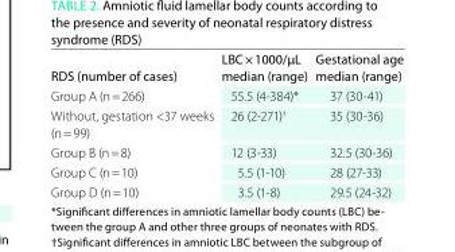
<table><thead><tr><td>Rds (number of cases)</td><td>LBC × 1000/µL median (range)</td><td>Gestational age median (range)</td></tr></thead><tbody><tr><td>Group A (n = 266)</td><td>55.5 (4-384)*</td><td>37 (30-41)</td></tr><tr><td>Without, gestation &lt;37 weeks (n = 99)</td><td>26 (2-271)<sup>†</sup></td><td>35 (30-36)</td></tr><tr><td>Group B (n = 8)</td><td>12 (3-33)</td><td>32.5 (30-36)</td></tr><tr><td>Group C (n = 10)</td><td>5.5 (1-10)</td><td>28 (27-33)</td></tr><tr><td>Group D (n = 10)</td><td>3.5 (1-8)</td><td>29.5 (24-32)</td></tr></tbody></table>